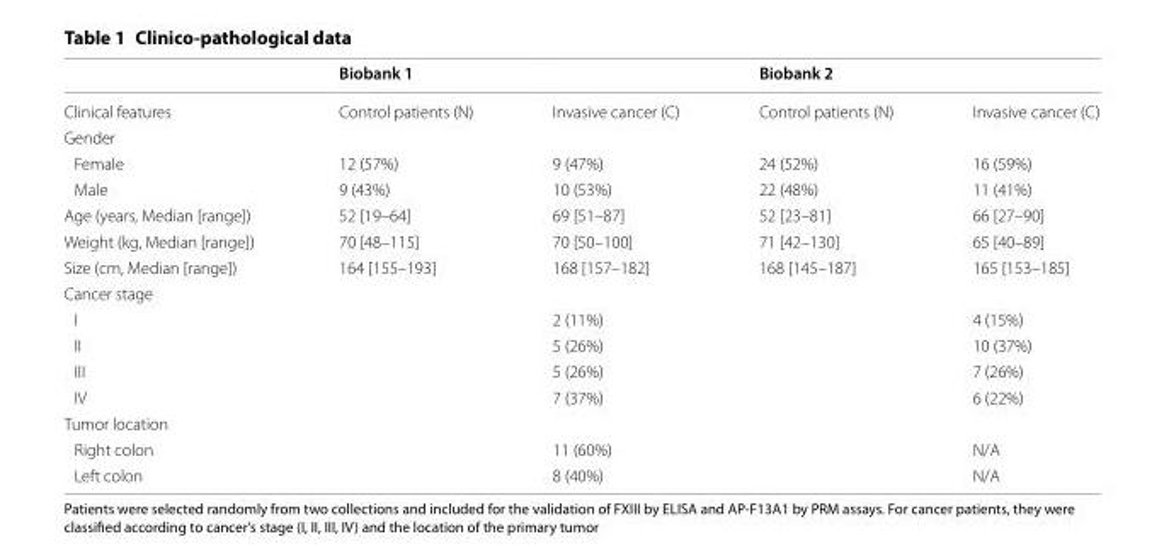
<table><thead><tr><td rowspan="2">Clinical features</td><td colspan="2">Biobank 1</td><td colspan="2">Biobank 2</td></tr><tr><td>Control patients (N)</td><td>Invasive cancer (C)</td><td>Control patients (N)</td><td>Invasive cancer (C)</td></tr></thead><tbody><tr><td colspan="5">Gender</td></tr><tr><td>Female</td><td>12 (57%)</td><td>9 (47%)</td><td>24 (52%)</td><td>16 (59%)</td></tr><tr><td>Male</td><td>9 (43%)</td><td>10 (53%)</td><td>22 (48%)</td><td>11 (41%)</td></tr><tr><td>Age (years, Median [range])</td><td>52 [19–64]</td><td>69 [51–87]</td><td>52 [23–81]</td><td>66 [27–90]</td></tr><tr><td>Weight (kg, Median [range])</td><td>70 [48–115]</td><td>70 [50–100]</td><td>71 [42–130]</td><td>65 [40–89]</td></tr><tr><td>Size (cm, Median [range])</td><td>164 [155–193]</td><td>168 [157–182]</td><td>168 [145–187]</td><td>165 [153–185]</td></tr><tr><td colspan="5">Cancer stage</td></tr><tr><td>I</td><td></td><td>2 (11%)</td><td></td><td>4 (15%)</td></tr><tr><td>II</td><td></td><td>5 (26%)</td><td></td><td>10 (37%)</td></tr><tr><td>III</td><td></td><td>5 (26%)</td><td></td><td>7 (26%)</td></tr><tr><td>IV</td><td></td><td>7 (37%)</td><td></td><td>6 (22%)</td></tr><tr><td colspan="5">Tumor location</td></tr><tr><td>Right colon</td><td></td><td>11 (60%)</td><td></td><td>N/A</td></tr><tr><td>Left colon</td><td></td><td>8 (40%)</td><td></td><td>N/A</td></tr></tbody></table>